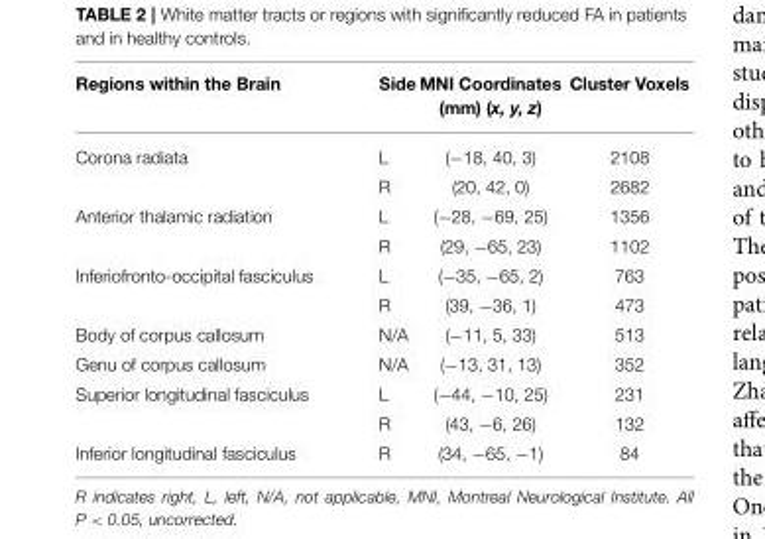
<table><thead><tr><td>Regions within the Brain</td><td>Side</td><td>MNI Coordinates (mm) (x, y, z)</td><td>Cluster Voxels</td></tr></thead><tbody><tr><td rowspan="2">Corona radiata</td><td>L</td><td>(−18, 40, 3)</td><td>2108</td></tr><tr><td>R</td><td>(20, 42, 0)</td><td>2682</td></tr><tr><td rowspan="2">Anterior thalamic radiation</td><td>L</td><td>(−28, −69, 25)</td><td>1356</td></tr><tr><td>R</td><td>(29, −65, 23)</td><td>1102</td></tr><tr><td rowspan="2">Inferiofronto-occipital fasciculus</td><td>L</td><td>(−35, −65, 2)</td><td>763</td></tr><tr><td>R</td><td>(39, −36, 1)</td><td>473</td></tr><tr><td>Body of corpus callosum</td><td>N/A</td><td>(−11, 5, 33)</td><td>513</td></tr><tr><td>Genu of corpus callosum</td><td>N/A</td><td>(−13, 31, 13)</td><td>352</td></tr><tr><td rowspan="2">Superior longitudinal fasciculus</td><td>L</td><td>(−44, −10, 25)</td><td>231</td></tr><tr><td>R</td><td>(43, −6, 26)</td><td>132</td></tr><tr><td>Inferior longitudinal fasciculus</td><td>R</td><td>(34, −65, −1)</td><td>84</td></tr></tbody></table>